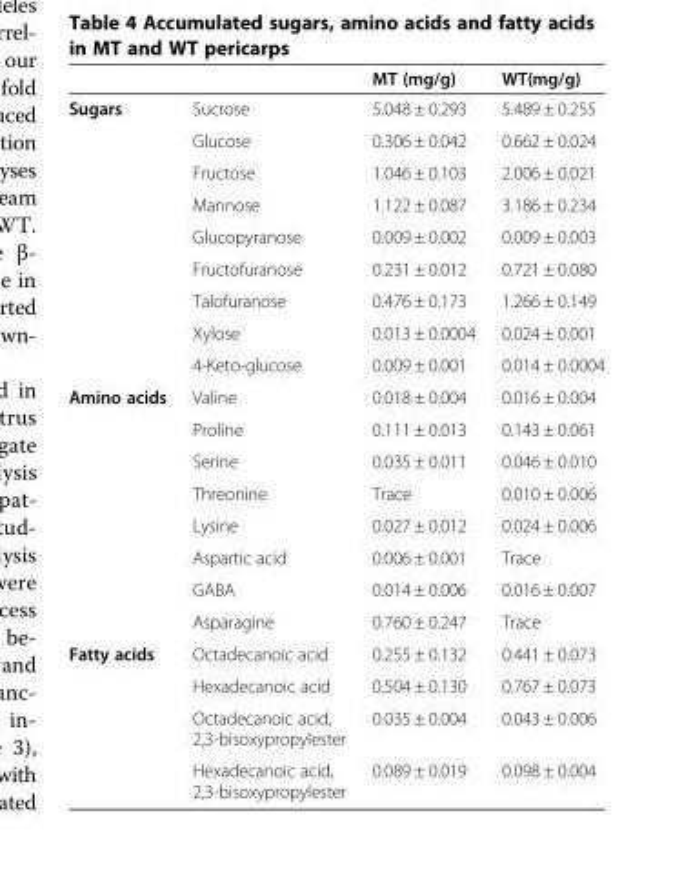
<table><thead><tr><td></td><td></td><td>MT (mg/g)</td><td>WT(mg/g)</td></tr></thead><tbody><tr><td rowspan="9">Sugars</td><td>Sucrose</td><td>5.048 ± 0.293</td><td>5.489 ± 0.255</td></tr><tr><td>Glucose</td><td>0.306 ± 0.042</td><td>0.662 ± 0.024</td></tr><tr><td>Fructose</td><td>1.046 ± 0.103</td><td>2.006 ± 0.021</td></tr><tr><td>Mannose</td><td>1.122 ± 0.087</td><td>3.186 ± 0.234</td></tr><tr><td>Glucopyranose</td><td>0.009 ± 0.002</td><td>0.009 ± 0.003</td></tr><tr><td>Fructofuranose</td><td>0.231 ± 0.012</td><td>0.721 ± 0.080</td></tr><tr><td>Talofuranose</td><td>0.476 ± 0.173</td><td>1.266 ± 0.149</td></tr><tr><td>Xylose</td><td>0.013 ± 0.0004</td><td>0.024 ± 0.001</td></tr><tr><td>4-Keto-glucose</td><td>0.009 ± 0.001</td><td>0.014 ± 0.0004</td></tr><tr><td rowspan="8">Amino acids</td><td>Valine</td><td>0.018 ± 0.004</td><td>0.016 ± 0.004</td></tr><tr><td>Proline</td><td>0.111 ± 0.013</td><td>0.143 ± 0.061</td></tr><tr><td>Serine</td><td>0.035 ± 0.011</td><td>0.046 ± 0.010</td></tr><tr><td>Threonine</td><td>Trace</td><td>0.010 ± 0.006</td></tr><tr><td>Lysine</td><td>0.027 ± 0.012</td><td>0.024 ± 0.006</td></tr><tr><td>Aspartic acid</td><td>0.006 ± 0.001</td><td>Trace</td></tr><tr><td>GABA</td><td>0.014 ± 0.006</td><td>0.016 ± 0.007</td></tr><tr><td>Asparagine</td><td>0.760 ± 0.247</td><td>Trace</td></tr><tr><td rowspan="4">Fatty acids</td><td>Octadecanoic acid</td><td>0.255 ± 0.132</td><td>0.441 ± 0.073</td></tr><tr><td>Hexadecanoic acid</td><td>0.504 ± 0.130</td><td>0.767 ± 0.073</td></tr><tr><td>Octadecanoic acid, 2,3-bisoxypropylester</td><td>0.035 ± 0.004</td><td>0.043 ± 0.006</td></tr><tr><td>Hexadecanoic acid, 2,3-bisoxypropylester</td><td>0.089 ± 0.019</td><td>0.098 ± 0.004</td></tr></tbody></table>